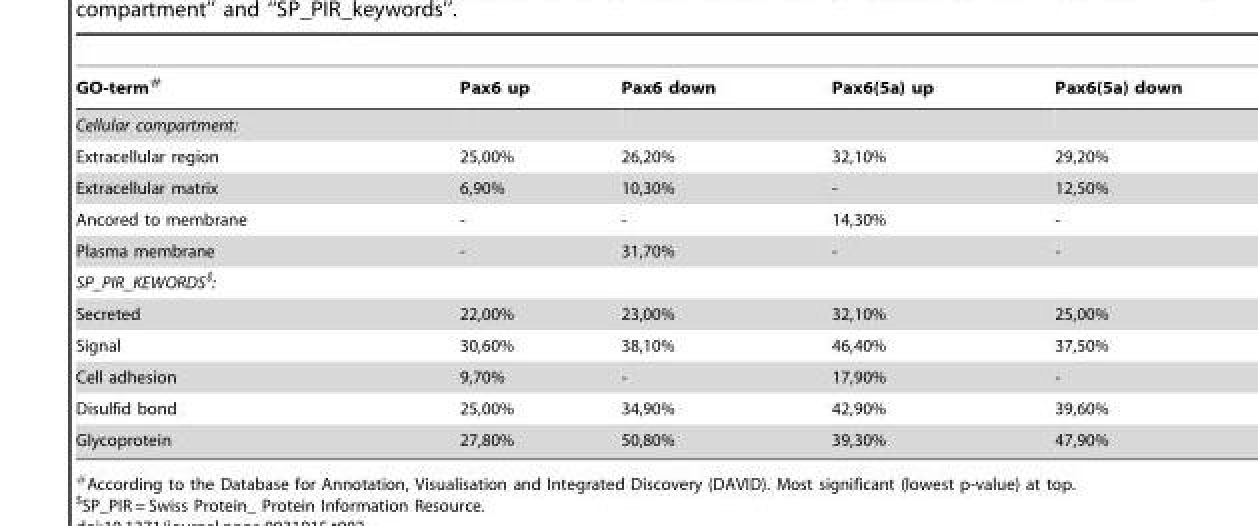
<table><thead><tr><td>GO-term#</td><td>Pax6 up</td><td>Pax6 down</td><td>Pax6(5a) up</td><td>Pax6(5a) down</td></tr></thead><tbody><tr><td colspan="5">Cellular compartment:</td></tr><tr><td>Extracellular region</td><td>25,00%</td><td>26,20%</td><td>32,10%</td><td>29,20%</td></tr><tr><td>Extracellular matrix</td><td>6,90%</td><td>10,30%</td><td>-</td><td>12,50%</td></tr><tr><td>Ancored to membrane</td><td>-</td><td>-</td><td>14,30%</td><td>-</td></tr><tr><td>Plasma membrane</td><td>-</td><td>31,70%</td><td>-</td><td>-</td></tr><tr><td colspan="5">SP_PIR_KEWORDS$:</td></tr><tr><td>Secreted</td><td>22,00%</td><td>23,00%</td><td>32,10%</td><td>25,00%</td></tr><tr><td>Signal</td><td>30,60%</td><td>38,10%</td><td>46,40%</td><td>37,50%</td></tr><tr><td>Cell adhesion</td><td>9,70%</td><td>-</td><td>17,90%</td><td>-</td></tr><tr><td>Disulfid bond</td><td>25,00%</td><td>34,90%</td><td>42,90%</td><td>39,60%</td></tr><tr><td>Glycoprotein</td><td>27,80%</td><td>50,80%</td><td>39,30%</td><td>47,90%</td></tr></tbody></table>